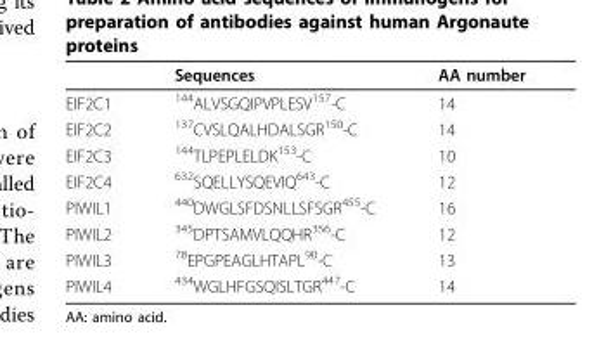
<table><thead><tr><td></td><td>Sequences</td><td>AA number</td></tr></thead><tbody><tr><td>EIF2C1</td><td><sup>144</sup>ALVSGQIPVPLESV<sup>157</sup>-C</td><td>14</td></tr><tr><td>EIF2C2</td><td><sup>137</sup>CVSLQALHDALSGR<sup>150</sup>-C</td><td>14</td></tr><tr><td>EIF2C3</td><td><sup>144</sup>TLPEPLELDK<sup>153</sup>-C</td><td>10</td></tr><tr><td>EIF2C4</td><td><sup>632</sup>SQELLYSQEVIQ<sup>643</sup>-C</td><td>12</td></tr><tr><td>PIWIL1</td><td><sup>440</sup>DWGLSFDSNLLSFSGR<sup>455</sup>-C</td><td>16</td></tr><tr><td>PIWIL2</td><td><sup>345</sup>DPTSAMVLQQHR<sup>356</sup>-C</td><td>12</td></tr><tr><td>PIWIL3</td><td><sup>78</sup>EPGPEAGLHTAPL<sup>90</sup>-C</td><td>13</td></tr><tr><td>PIWIL4</td><td><sup>434</sup>WGLHFGSQISLTGR<sup>447</sup>-C</td><td>14</td></tr></tbody></table>